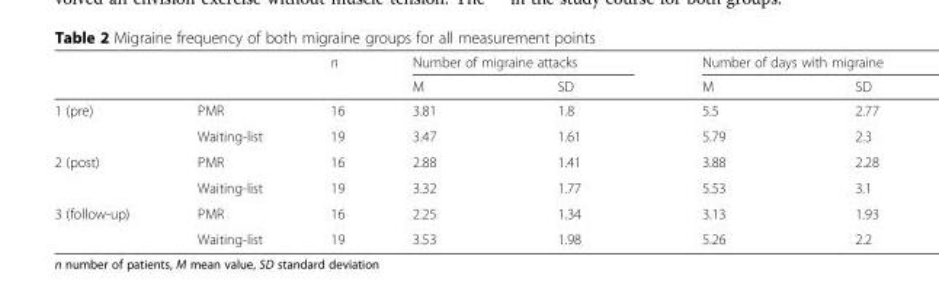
<table><thead><tr><td rowspan="2"></td><td rowspan="2"></td><td rowspan="2">n</td><td colspan="2">Number of migraine attacks</td><td colspan="2">Number of days with migraine</td></tr><tr><td>M</td><td>SD</td><td>M</td><td>SD</td></tr></thead><tbody><tr><td rowspan="2">1 (pre)</td><td>PMR</td><td>16</td><td>3.81</td><td>1.8</td><td>5.5</td><td>2.77</td></tr><tr><td>Waiting-list</td><td>19</td><td>3.47</td><td>1.61</td><td>5.79</td><td>2.3</td></tr><tr><td rowspan="2">2 (post)</td><td>PMR</td><td>16</td><td>2.88</td><td>1.41</td><td>3.88</td><td>2.28</td></tr><tr><td>Waiting-list</td><td>19</td><td>3.32</td><td>1.77</td><td>5.53</td><td>3.1</td></tr><tr><td rowspan="2">3 (follow-up)</td><td>PMR</td><td>16</td><td>2.25</td><td>1.34</td><td>3.13</td><td>1.93</td></tr><tr><td>Waiting-list</td><td>19</td><td>3.53</td><td>1.98</td><td>5.26</td><td>2.2</td></tr></tbody></table>